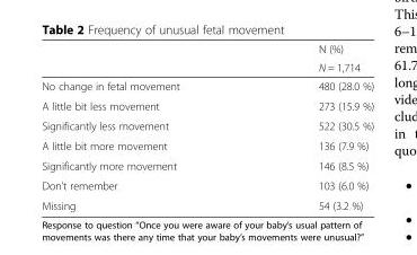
<table><thead><tr><td rowspan="2"></td><td rowspan="2">N (%) N = 1,714</td></tr><tr></tr></thead><tbody><tr><td>No change in fetal movement</td><td>480 (28.0 %)</td></tr><tr><td>A little bit less movement</td><td>273 (15.9 %)</td></tr><tr><td>Significantly less movement</td><td>522 (30.5 %)</td></tr><tr><td>A little bit more movement</td><td>136 (7.9 %)</td></tr><tr><td>Significantly more movement</td><td>146 (8.5 %)</td></tr><tr><td>Don’t remember</td><td>103 (6.0 %)</td></tr><tr><td>Missing</td><td>54 (3.2 %)</td></tr></tbody></table>